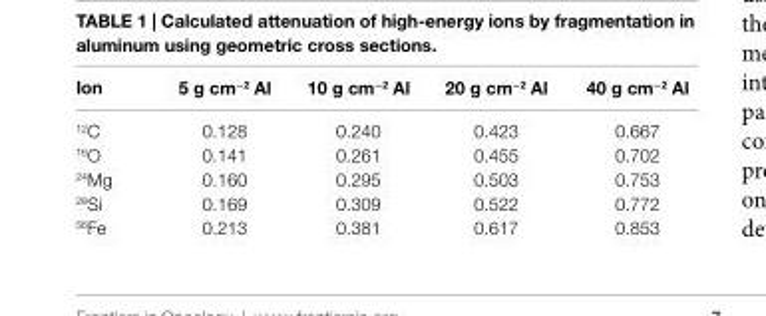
<table><thead><tr><td>ion</td><td>5 g cm<sup>−2</sup> Al</td><td>10 g cm<sup>−2</sup> Al</td><td>20 g cm<sup>−2</sup> Al</td><td>40 g cm<sup>−2</sup> Al</td></tr></thead><tbody><tr><td><sup>12</sup>C</td><td>0.128</td><td>0.240</td><td>0.423</td><td>0.667</td></tr><tr><td><sup>16</sup>O</td><td>0.141</td><td>0.261</td><td>0.455</td><td>0.702</td></tr><tr><td><sup>24</sup>Mg</td><td>0.160</td><td>0.295</td><td>0.503</td><td>0.753</td></tr><tr><td><sup>28</sup>Si</td><td>0.169</td><td>0.309</td><td>0.522</td><td>0.772</td></tr><tr><td><sup>56</sup>Fe</td><td>0.213</td><td>0.381</td><td>0.617</td><td>0.853</td></tr></tbody></table>